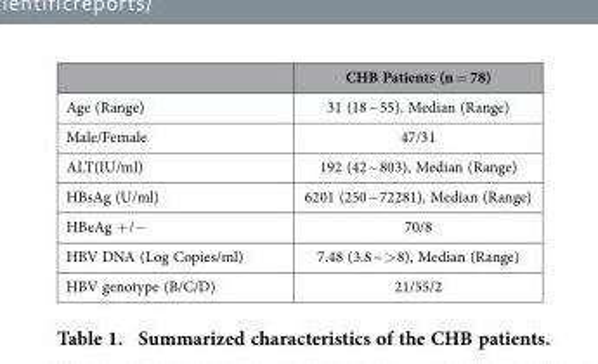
<table><thead><tr><td></td><td>CHB Patients (n = 78)</td></tr></thead><tbody><tr><td>Age (Range)</td><td>31 (18 ~ 55), Median (Range)</td></tr><tr><td>Male/Female</td><td>47/31</td></tr><tr><td>ALT(IU/ml)</td><td>192 (42 ~ 803), Median (Range)</td></tr><tr><td>HBsAg (U/ml)</td><td>6201 (250 ~ 72281), Median (Range)</td></tr><tr><td>HBeAg + /−</td><td>70/8</td></tr><tr><td>HBV DNA (Log Copies/ml)</td><td>7.48 (3.8 ~ &gt; 8), Median (Range)</td></tr><tr><td>HBV genotype (B/C/D)</td><td>21/55/2</td></tr></tbody></table>